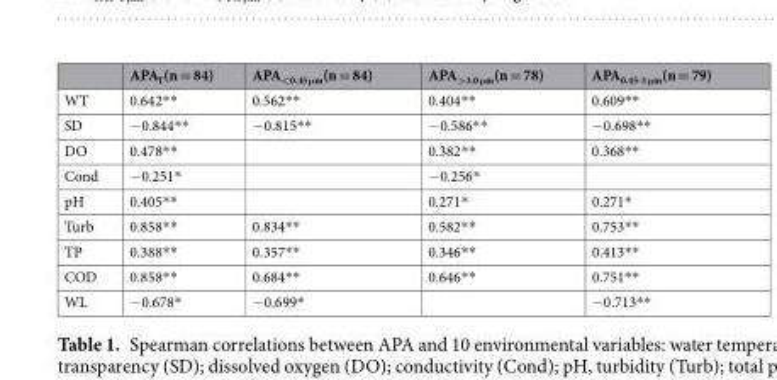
<table><thead><tr><td></td><td>APA<sub>T</sub>(n = 84)</td><td>APA<sub>&lt;0.45 μm</sub>(n = 84)</td><td>APA<sub>&gt;3.0 μm</sub>(n = 78)</td><td>APA<sub>0.45-3 μm</sub>(n = 79)</td></tr></thead><tbody><tr><td>WT</td><td>0.642**</td><td>0.562**</td><td>0.404**</td><td>0.609**</td></tr><tr><td>SD</td><td>−0.844**</td><td>−0.815**</td><td>−0.586**</td><td>−0.698**</td></tr><tr><td>DO</td><td>0.478**</td><td></td><td>0.382**</td><td>0.368**</td></tr><tr><td>Cond</td><td>−0.251*</td><td></td><td>−0.256*</td><td></td></tr><tr><td>pH</td><td>0.405**</td><td></td><td>0.271*</td><td>0.271*</td></tr><tr><td>Turb</td><td>0.858**</td><td>0.834**</td><td>0.582**</td><td>0.753**</td></tr><tr><td>TP</td><td>0.388**</td><td>0.357**</td><td>0.346**</td><td>0.413**</td></tr><tr><td>COD</td><td>0.858**</td><td>0.684**</td><td>0.646**</td><td>0.751**</td></tr><tr><td>WL</td><td>−0.678*</td><td>−0.699*</td><td></td><td>−0.713**</td></tr></tbody></table>